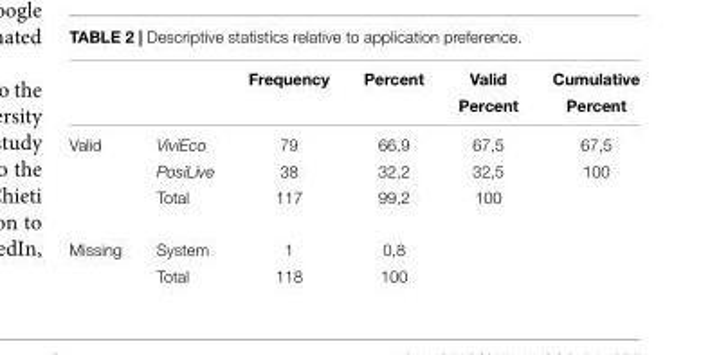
<table><thead><tr><td rowspan="2"></td><td rowspan="2"></td><td rowspan="2">Frequency</td><td rowspan="2">Percent</td><td rowspan="2">Valid Percent</td><td rowspan="2">Cumulative Percent</td></tr><tr></tr></thead><tbody><tr><td rowspan="3">Valid</td><td>ViviEco</td><td>79</td><td>66,9</td><td>67,5</td><td>67,5</td></tr><tr><td>PosiLive</td><td>38</td><td>32,2</td><td>32,5</td><td>100</td></tr><tr><td>Total</td><td>117</td><td>99,2</td><td>100</td><td></td></tr><tr><td rowspan="2">Missing</td><td>System</td><td>1</td><td>0,8</td><td></td><td></td></tr><tr><td>Total</td><td>118</td><td>100</td><td></td><td></td></tr></tbody></table>